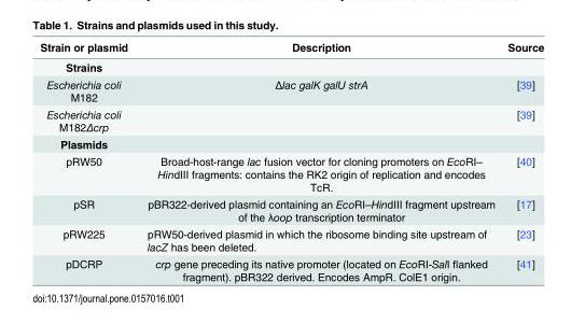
<table><thead><tr><td>Strain or plasmid</td><td>Description</td><td>Source</td></tr></thead><tbody><tr><td colspan="3">Strains</td></tr><tr><td>Escherichia coli M182</td><td>Δlac galK galU strA</td><td>[39]</td></tr><tr><td>Escherichia coli M182Δcrp</td><td></td><td>[39]</td></tr><tr><td colspan="3">Plasmids</td></tr><tr><td>pRW50</td><td>Broad-host-range lac fusion vector for cloning promoters on EcoRI– HindIII fragments: contains the RK2 origin of replication and encodes TcR.</td><td>[40]</td></tr><tr><td>pSR</td><td>pBR322-derived plasmid containing an EcoRI–HindIII fragment upstream of the λoop transcription terminator</td><td>[17]</td></tr><tr><td>pRW225</td><td>pRW50-derived plasmid in which the ribosome binding site upstream of lacZ has been deleted.</td><td>[23]</td></tr><tr><td>pDCRP</td><td>crp gene preceding its native promoter (located on EcoRI-SalI flanked fragment). pBR322 derived. Encodes AmpR. ColE1 origin.</td><td>[41]</td></tr></tbody></table>